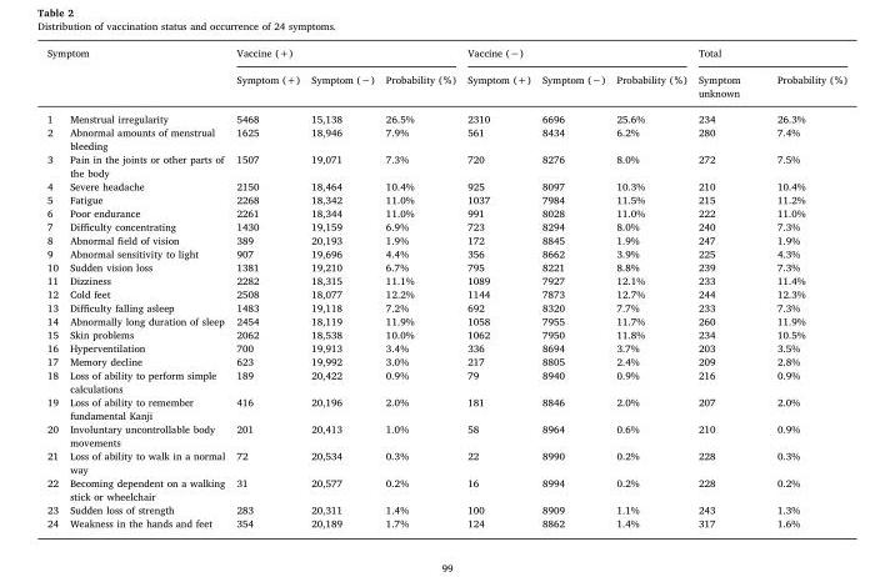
<table><thead><tr><td colspan="2">Symptom</td><td colspan="3">Vaccine (+)</td><td colspan="3">Vaccine (−)</td><td colspan="2">Total</td></tr><tr><td></td><td></td><td>Symptom (+)</td><td>Symptom (−)</td><td>Probability (％)</td><td>Symptom (+)</td><td>Symptom (−)</td><td>Probability (％)</td><td>Symptom unknown</td><td>Probability (％)</td></tr></thead><tbody><tr><td>1</td><td>Menstrual irregularity</td><td>5468</td><td>15,138</td><td>26.5%</td><td>2310</td><td>6696</td><td>25.6%</td><td>234</td><td>26.3%</td></tr><tr><td>2</td><td>Abnormal amounts of menstrual bleeding</td><td>1625</td><td>18,946</td><td>7.9%</td><td>561</td><td>8434</td><td>6.2%</td><td>280</td><td>7.4%</td></tr><tr><td>3</td><td>Pain in the joints or other parts of the body</td><td>1507</td><td>19,071</td><td>7.3%</td><td>720</td><td>8276</td><td>8.0%</td><td>272</td><td>7.5%</td></tr><tr><td>4</td><td>Severe headache</td><td>2150</td><td>18,464</td><td>10.4%</td><td>925</td><td>8097</td><td>10.3%</td><td>210</td><td>10.4%</td></tr><tr><td>5</td><td>Fatigue</td><td>2268</td><td>18,342</td><td>11.0%</td><td>1037</td><td>7984</td><td>11.5%</td><td>215</td><td>11.2%</td></tr><tr><td>6</td><td>Poor endurance</td><td>2261</td><td>18,344</td><td>11.0%</td><td>991</td><td>8028</td><td>11.0%</td><td>222</td><td>11.0%</td></tr><tr><td>7</td><td>Difficulty concentrating</td><td>1430</td><td>19,159</td><td>6.9%</td><td>723</td><td>8294</td><td>8.0%</td><td>240</td><td>7.3%</td></tr><tr><td>8</td><td>Abnormal field of vision</td><td>389</td><td>20,193</td><td>1.9%</td><td>172</td><td>8845</td><td>1.9%</td><td>247</td><td>1.9%</td></tr><tr><td>9</td><td>Abnormal sensitivity to light</td><td>907</td><td>19,696</td><td>4.4%</td><td>356</td><td>8662</td><td>3.9%</td><td>225</td><td>4.3%</td></tr><tr><td>10</td><td>Sudden vision loss</td><td>1381</td><td>19,210</td><td>6.7%</td><td>795</td><td>8221</td><td>8.8%</td><td>239</td><td>7.3%</td></tr><tr><td>11</td><td>Dizziness</td><td>2282</td><td>18,315</td><td>11.1%</td><td>1089</td><td>7927</td><td>12.1%</td><td>233</td><td>11.4%</td></tr><tr><td>12</td><td>Cold feet</td><td>2508</td><td>18,077</td><td>12.2%</td><td>1144</td><td>7873</td><td>12.7%</td><td>244</td><td>12.3%</td></tr><tr><td>13</td><td>Difficulty falling asleep</td><td>1483</td><td>19,118</td><td>7.2%</td><td>692</td><td>8320</td><td>7.7%</td><td>233</td><td>7.3%</td></tr><tr><td>14</td><td>Abnormally long duration of sleep</td><td>2454</td><td>18,119</td><td>11.9%</td><td>1058</td><td>7955</td><td>11.7%</td><td>260</td><td>11.9%</td></tr><tr><td>15</td><td>Skin problems</td><td>2062</td><td>18,538</td><td>10.0%</td><td>1062</td><td>7950</td><td>11.8%</td><td>234</td><td>10.5%</td></tr><tr><td>16</td><td>Hyperventilation</td><td>700</td><td>19,913</td><td>3.4%</td><td>336</td><td>8694</td><td>3.7%</td><td>203</td><td>3.5%</td></tr><tr><td>17</td><td>Memory decline</td><td>623</td><td>19,992</td><td>3.0%</td><td>217</td><td>8805</td><td>2.4%</td><td>209</td><td>2.8%</td></tr><tr><td>18</td><td>Loss of ability to perform simple calculations</td><td>189</td><td>20,422</td><td>0.9%</td><td>79</td><td>8940</td><td>0.9%</td><td>216</td><td>0.9%</td></tr><tr><td>19</td><td>Loss of ability to remember fundamental Kanji</td><td>416</td><td>20,196</td><td>2.0%</td><td>181</td><td>8846</td><td>2.0%</td><td>207</td><td>2.0%</td></tr><tr><td>20</td><td>Involuntary uncontrollable body movements</td><td>201</td><td>20,413</td><td>1.0%</td><td>58</td><td>8964</td><td>0.6%</td><td>210</td><td>0.9%</td></tr><tr><td>21</td><td>Loss of ability to walk in a normal way</td><td>72</td><td>20,534</td><td>0.3%</td><td>22</td><td>8990</td><td>0.2%</td><td>228</td><td>0.3%</td></tr><tr><td>22</td><td>Becoming dependent on a walking stick or wheelchair</td><td>31</td><td>20,577</td><td>0.2%</td><td>16</td><td>8994</td><td>0.2%</td><td>228</td><td>0.2%</td></tr><tr><td>23</td><td>Sudden loss of strength</td><td>283</td><td>20,311</td><td>1.4%</td><td>100</td><td>8909</td><td>1.1%</td><td>243</td><td>1.3%</td></tr><tr><td>24</td><td>Weakness in the hands and feet</td><td>354</td><td>20,189</td><td>1.7%</td><td>124</td><td>8862</td><td>1.4%</td><td>317</td><td>1.6%</td></tr></tbody></table>